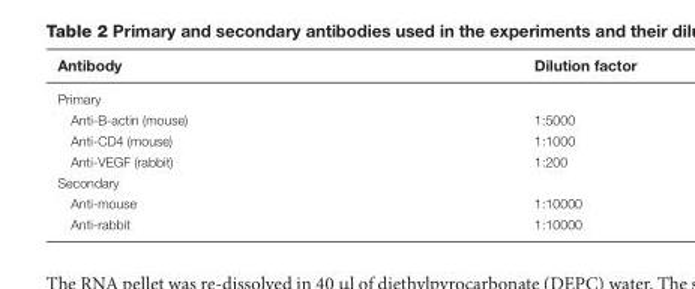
<table><thead><tr><td>Antibody</td><td>Dilution factor</td></tr></thead><tbody><tr><td colspan="2">Primary</td></tr><tr><td>Anti-B-actin (mouse)</td><td>1:5000</td></tr><tr><td>Anti-CD4 (mouse)</td><td>1:1000</td></tr><tr><td>Anti-VEGF (rabbit)</td><td>1:200</td></tr><tr><td colspan="2">Secondary</td></tr><tr><td>Anti-mouse</td><td>1:10000</td></tr><tr><td>Anti-rabbit</td><td>1:10000</td></tr></tbody></table>